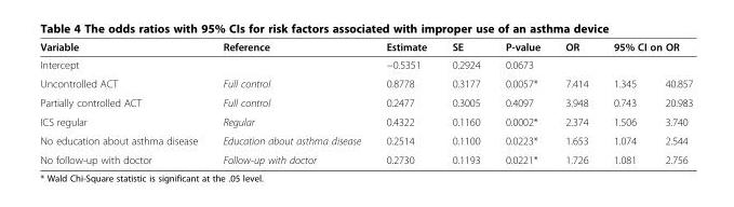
<table><thead><tr><td rowspan="2">Variable Intercept</td><td rowspan="2">Reference</td><td rowspan="2">Estimate −0.5351</td><td rowspan="2">SE 0.2924</td><td rowspan="2">P-value 0.0673</td><td rowspan="2">OR</td><td colspan="2">95% CI on OR</td></tr><tr><td></td><td></td></tr></thead><tbody><tr><td>Uncontrolled ACT</td><td>Full control</td><td>0.8778</td><td>0.3177</td><td>0.0057*</td><td>7.414</td><td>1.345</td><td>40.857</td></tr><tr><td>Partially controlled ACT</td><td>Full control</td><td>0.2477</td><td>0.3005</td><td>0.4097</td><td>3.948</td><td>0.743</td><td>20.983</td></tr><tr><td>ICS regular</td><td>Regular</td><td>0.4322</td><td>0.1160</td><td>0.0002*</td><td>2.374</td><td>1.506</td><td>3.740</td></tr><tr><td>No education about asthma disease</td><td>Education about asthma disease</td><td>0.2514</td><td>0.1100</td><td>0.0223*</td><td>1.653</td><td>1.074</td><td>2.544</td></tr><tr><td>No follow-up with doctor</td><td>Follow-up with doctor</td><td>0.2730</td><td>0.1193</td><td>0.0221*</td><td>1.726</td><td>1.081</td><td>2.756</td></tr></tbody></table>